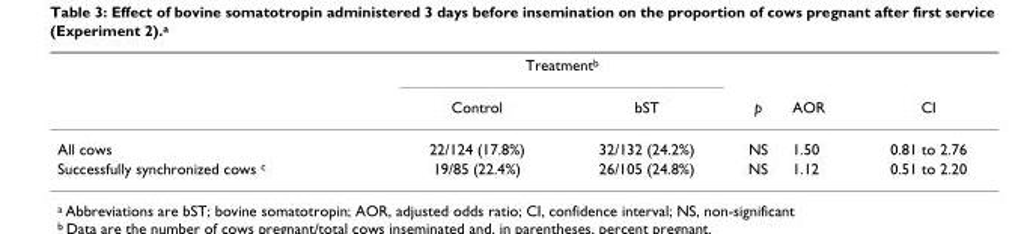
<table><thead><tr><td rowspan="2"></td><td colspan="2">Treatment<sup>b</sup></td><td rowspan="2">p</td><td rowspan="2">AOR</td><td rowspan="2">CI</td></tr><tr><td>Control</td><td>bST</td></tr></thead><tbody><tr><td>All cows</td><td>22/124 (17.8%)</td><td>32/132 (24.2%)</td><td>NS</td><td>1.50</td><td>0.81 to 2.76</td></tr><tr><td>Successfully synchronized cows <sup>c</sup></td><td>19/85 (22.4%)</td><td>26/105 (24.8%)</td><td>NS</td><td>1.12</td><td>0.51 to 2.20</td></tr></tbody></table>